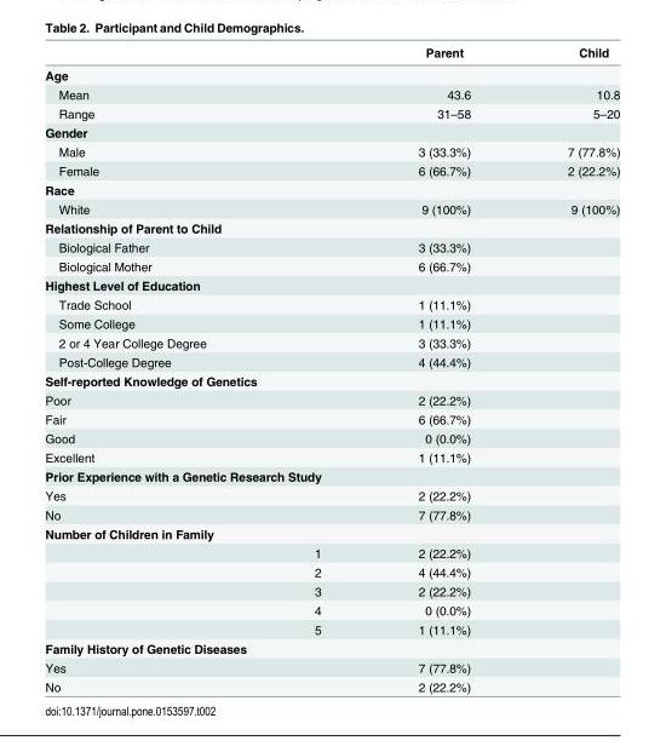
<table><thead><tr><td></td><td>Parent</td><td>Child</td></tr></thead><tbody><tr><td colspan="3">Age</td></tr><tr><td>Mean</td><td>43.6</td><td>10.8</td></tr><tr><td>Range</td><td>31–58</td><td>5–20</td></tr><tr><td colspan="3">Gender</td></tr><tr><td>Male</td><td>3 (33.3%)</td><td>7 (77.8%)</td></tr><tr><td>Female</td><td>6 (66.7%)</td><td>2 (22.2%)</td></tr><tr><td colspan="3">Race</td></tr><tr><td>White</td><td>9 (100%)</td><td>9 (100%)</td></tr><tr><td colspan="3">Relationship of Parent to Child</td></tr><tr><td>Biological Father</td><td>3 (33.3%)</td><td></td></tr><tr><td>Biological Mother</td><td>6 (66.7%)</td><td></td></tr><tr><td colspan="3">Highest Level of Education</td></tr><tr><td>Trade School</td><td>1 (11.1%)</td><td></td></tr><tr><td>Some College</td><td>1 (11.1%)</td><td></td></tr><tr><td>2 or 4 Year College Degree</td><td>3 (33.3%)</td><td></td></tr><tr><td>Post-College Degree</td><td>4 (44.4%)</td><td></td></tr><tr><td colspan="3">Self-reported Knowledge of Genetics</td></tr><tr><td>Poor</td><td>2 (22.2%)</td><td></td></tr><tr><td>Fair</td><td>6 (66.7%)</td><td></td></tr><tr><td>Good</td><td>0 (0.0%)</td><td></td></tr><tr><td>Excellent</td><td>1 (11.1%)</td><td></td></tr><tr><td colspan="3">Prior Experience with a Genetic Research Study</td></tr><tr><td>Yes</td><td>2 (22.2%)</td><td></td></tr><tr><td>No</td><td>7 (77.8%)</td><td></td></tr><tr><td colspan="3">Number of Children in Family</td></tr><tr><td>1</td><td>2 (22.2%)</td><td></td></tr><tr><td>2</td><td>4 (44.4%)</td><td></td></tr><tr><td>3</td><td>2 (22.2%)</td><td></td></tr><tr><td>4</td><td>0 (0.0%)</td><td></td></tr><tr><td>5</td><td>1 (11.1%)</td><td></td></tr><tr><td colspan="3">Family History of Genetic Diseases</td></tr><tr><td>Yes</td><td>7 (77.8%)</td><td></td></tr><tr><td>No</td><td>2 (22.2%)</td><td></td></tr></tbody></table>